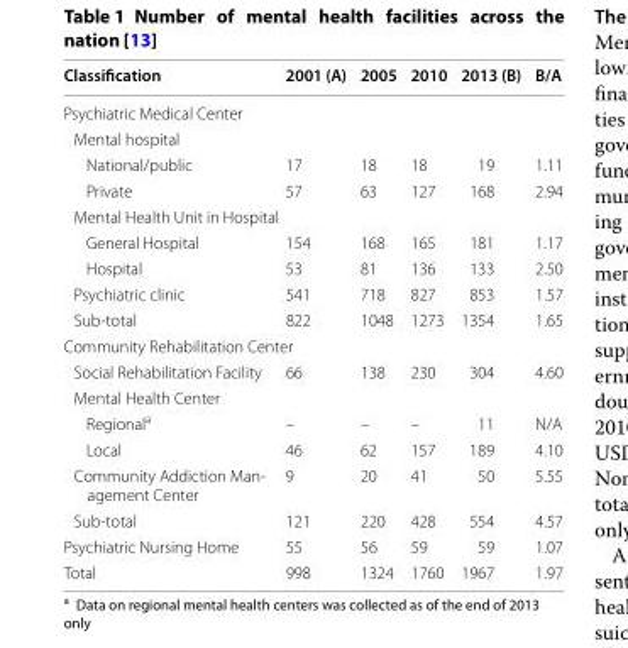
<table><thead><tr><td>Classification</td><td>2001 (A)</td><td>2005</td><td>2010</td><td>2013 (B)</td><td>B/A</td></tr></thead><tbody><tr><td colspan="6">Psychiatric Medical Center</td></tr><tr><td colspan="6">Mental hospital</td></tr><tr><td>National/public</td><td>17</td><td>18</td><td>18</td><td>19</td><td>1.11</td></tr><tr><td>Private</td><td>57</td><td>63</td><td>127</td><td>168</td><td>2.94</td></tr><tr><td colspan="6">Mental Health Unit in Hospital</td></tr><tr><td>General Hospital</td><td>154</td><td>168</td><td>165</td><td>181</td><td>1.17</td></tr><tr><td>Hospital</td><td>53</td><td>81</td><td>136</td><td>133</td><td>2.50</td></tr><tr><td>Psychiatric clinic</td><td>541</td><td>718</td><td>827</td><td>853</td><td>1.57</td></tr><tr><td>Sub‑total</td><td>822</td><td>1048</td><td>1273</td><td>1354</td><td>1.65</td></tr><tr><td colspan="6">Community Rehabilitation Center</td></tr><tr><td>Social Rehabilitation Facility</td><td>66</td><td>138</td><td>230</td><td>304</td><td>4.60</td></tr><tr><td colspan="6">Mental Health Center</td></tr><tr><td>Regional<sup>a</sup></td><td>–</td><td>–</td><td>–</td><td>11</td><td>N/A</td></tr><tr><td>Local</td><td>46</td><td>62</td><td>157</td><td>189</td><td>4.10</td></tr><tr><td>Community Addiction Man‑ agement Center</td><td>9</td><td>20</td><td>41</td><td>50</td><td>5.55</td></tr><tr><td>Sub‑total</td><td>121</td><td>220</td><td>428</td><td>554</td><td>4.57</td></tr><tr><td>Psychiatric Nursing Home</td><td>55</td><td>56</td><td>59</td><td>59</td><td>1.07</td></tr><tr><td>Total</td><td>998</td><td>1324</td><td>1760</td><td>1967</td><td>1.97</td></tr></tbody></table>